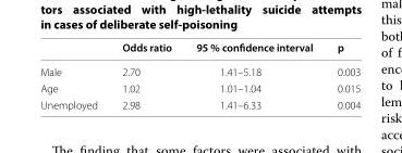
<table><thead><tr><td></td><td>Odds ratio</td><td>95 % confidence interval</td><td>p</td></tr></thead><tbody><tr><td>Male</td><td>2.70</td><td>1.41–5.18</td><td>0.003</td></tr><tr><td>Age</td><td>1.02</td><td>1.01–1.04</td><td>0.015</td></tr><tr><td>Unemployed</td><td>2.98</td><td>1.41–6.33</td><td>0.004</td></tr></tbody></table>